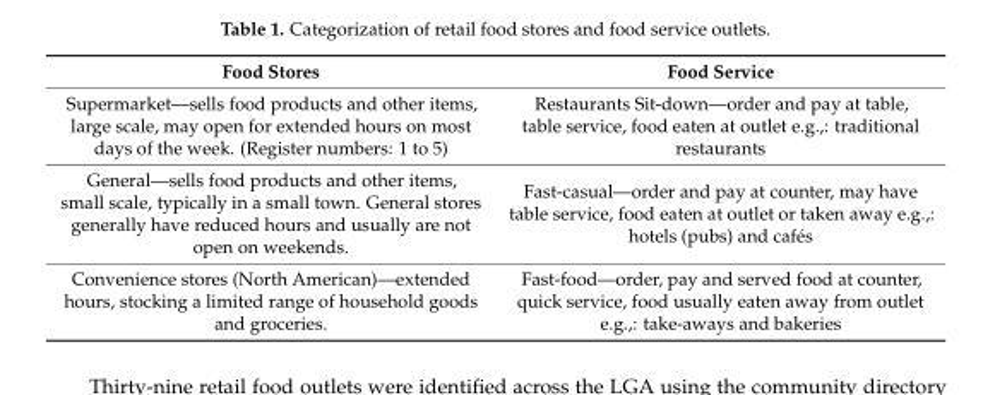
<table><thead><tr><td>Food Stores</td><td>Food Service</td></tr></thead><tbody><tr><td>Supermarket—sells food products and other items, large scale, may open for extended hours on most days of the week. (Register numbers: 1 to 5)</td><td>Restaurants Sit-down—order and pay at table, table service, food eaten at outlet e.g.,: traditional restaurants</td></tr><tr><td>General—sells food products and other items, small scale, typically in a small town. General stores generally have reduced hours and usually are not open on weekends.</td><td>Fast-casual—order and pay at counter, may have table service, food eaten at outlet or taken away e.g.,: hotels (pubs) and cafés</td></tr><tr><td>Convenience stores (North American)—extended hours, stocking a limited range of household goods and groceries.</td><td>Fast-food—order, pay and served food at counter, quick service, food usually eaten away from outlet e.g.,: take-aways and bakeries</td></tr></tbody></table>